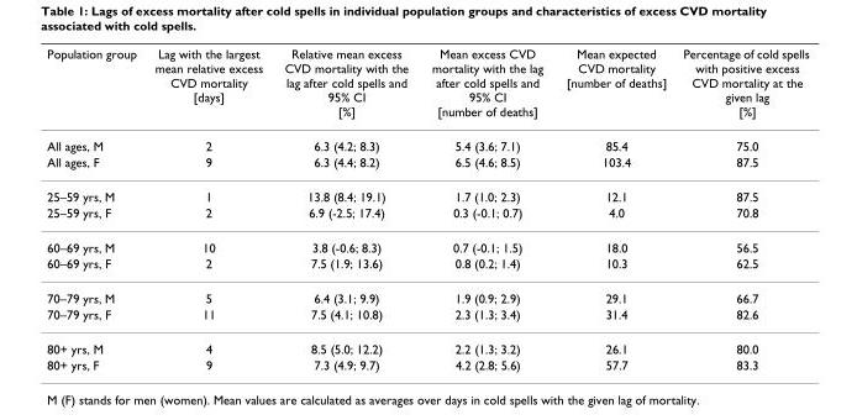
<table><thead><tr><td>Population group</td><td>Lag with the largest mean relative excess CVD mortality [days]</td><td>Relative mean excess CVD mortality with the lag after cold spells and 95% CI [%]</td><td>Mean excess CVD mortality with the lag after cold spells and 95% CI [number of deaths]</td><td>Mean expected CVD mortality [number of deaths]</td><td>Percentage of cold spells with positive excess CVD mortality at the given lag [%]</td></tr></thead><tbody><tr><td>All ages, M</td><td>2</td><td>6.3 (4.2; 8.3)</td><td>5.4 (3.6; 7.1)</td><td>85.4</td><td>75.0</td></tr><tr><td>All ages, F</td><td>9</td><td>6.3 (4.4; 8.2)</td><td>6.5 (4.6; 8.5)</td><td>103.4</td><td>87.5</td></tr><tr><td>25–59 yrs, M</td><td>1</td><td>13.8 (8.4; 19.1)</td><td>1.7 (1.0; 2.3)</td><td>12.1</td><td>87.5</td></tr><tr><td>25–59 yrs, F</td><td>2</td><td>6.9 (-2.5; 17.4)</td><td>0.3 (-0.1; 0.7)</td><td>4.0</td><td>70.8</td></tr><tr><td>60–69 yrs, M</td><td>10</td><td>3.8 (-0.6; 8.3)</td><td>0.7 (-0.1; 1.5)</td><td>18.0</td><td>56.5</td></tr><tr><td>60–69 yrs, F</td><td>2</td><td>7.5 (1.9; 13.6)</td><td>0.8 (0.2; 1.4)</td><td>10.3</td><td>62.5</td></tr><tr><td>70–79 yrs, M</td><td>5</td><td>6.4 (3.1; 9.9)</td><td>1.9 (0.9; 2.9)</td><td>29.1</td><td>66.7</td></tr><tr><td>70–79 yrs, F</td><td>11</td><td>7.5 (4.1; 10.8)</td><td>2.3 (1.3; 3.4)</td><td>31.4</td><td>82.6</td></tr><tr><td>80+ yrs, M</td><td>4</td><td>8.5 (5.0; 12.2)</td><td>2.2 (1.3; 3.2)</td><td>26.1</td><td>80.0</td></tr><tr><td>80+ yrs, F</td><td>9</td><td>7.3 (4.9; 9.7)</td><td>4.2 (2.8; 5.6)</td><td>57.7</td><td>83.3</td></tr></tbody></table>